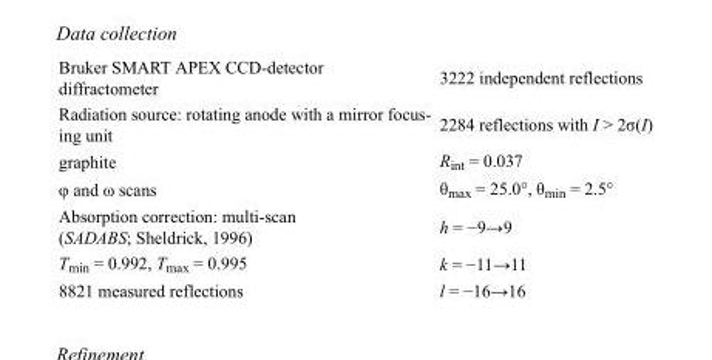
<table><tbody><tr><td>Bruker SMART APEX CCD-detector diffractometer</td><td>3222 independent reflections</td></tr><tr><td>Radiation source: rotating anode with a mirror focus- ing unit</td><td>2284 reflections with I &gt; 2σ(I)</td></tr><tr><td>graphite</td><td>R<sub>int</sub> = 0.037</td></tr><tr><td>φ and ω scans</td><td>θ<sub>max</sub> = 25.0°, θ<sub>min</sub> = 2.5°</td></tr><tr><td>Absorption correction: multi-scan (SADABS; Sheldrick, 1996)</td><td>h = −9→9</td></tr><tr><td>T<sub>min</sub> = 0.992, T<sub>max</sub> = 0.995</td><td>k = −11→11</td></tr><tr><td>8821 measured reflections</td><td>l = −16→16</td></tr></tbody></table>